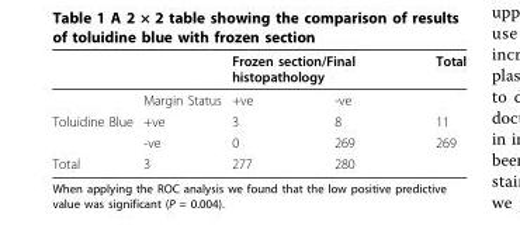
<table><thead><tr><td rowspan="2"></td><td rowspan="2">Margin Status</td><td colspan="2">Frozen section/Final histopathology</td><td rowspan="2">Total</td></tr><tr><td>+ve</td><td>-ve</td></tr></thead><tbody><tr><td rowspan="2">Toluidine Blue</td><td>+ve</td><td>3</td><td>8</td><td>11</td></tr><tr><td>-ve</td><td>0</td><td>269</td><td>269</td></tr><tr><td>Total</td><td>3</td><td>277</td><td>280</td><td></td></tr></tbody></table>